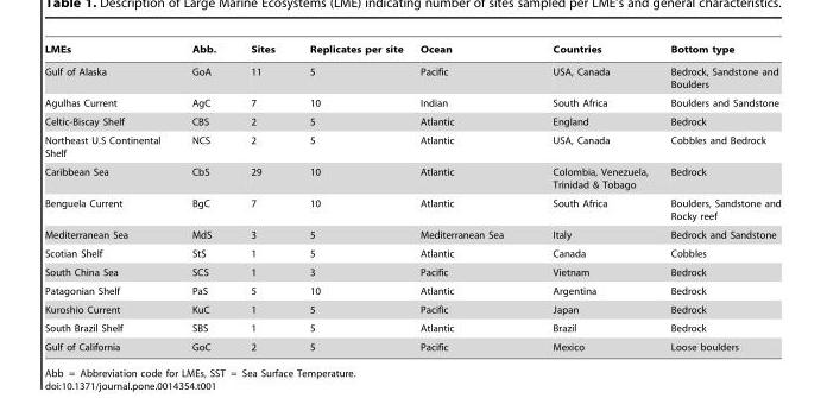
<table><thead><tr><td>LMEs</td><td>Abb.</td><td>Sites</td><td>Replicates per site</td><td>Ocean</td><td>Countries</td><td>Bottom type</td></tr></thead><tbody><tr><td>Gulf of Alaska</td><td>GoA</td><td>11</td><td>5</td><td>Pacific</td><td>USA, Canada</td><td>Bedrock, Sandstone and Boulders</td></tr><tr><td>Agulhas Current</td><td>AgC</td><td>7</td><td>10</td><td>Indian</td><td>South Africa</td><td>Boulders and Sandstone</td></tr><tr><td>Celtic-Biscay Shelf</td><td>CBS</td><td>2</td><td>5</td><td>Atlantic</td><td>England</td><td>Bedrock</td></tr><tr><td>Northeast U.S Continental Shelf</td><td>NCS</td><td>2</td><td>5</td><td>Atlantic</td><td>USA, Canada</td><td>Cobbles and Bedrock</td></tr><tr><td>Caribbean Sea</td><td>CbS</td><td>29</td><td>10</td><td>Atlantic</td><td>Colombia, Venezuela, Trinidad &amp; Tobago</td><td>Bedrock</td></tr><tr><td>Benguela Current</td><td>BgC</td><td>7</td><td>10</td><td>Atlantic</td><td>South Africa</td><td>Boulders, Sandstone and Rocky reef</td></tr><tr><td>Mediterranean Sea</td><td>MdS</td><td>3</td><td>5</td><td>Mediterranean Sea</td><td>Italy</td><td>Bedrock and Sandstone</td></tr><tr><td>Scotian Shelf</td><td>StS</td><td>1</td><td>5</td><td>Atlantic</td><td>Canada</td><td>Cobbles</td></tr><tr><td>South China Sea</td><td>SCS</td><td>1</td><td>3</td><td>Pacific</td><td>Vietnam</td><td>Bedrock</td></tr><tr><td>Patagonian Shelf</td><td>PaS</td><td>5</td><td>10</td><td>Atlantic</td><td>Argentina</td><td>Bedrock</td></tr><tr><td>Kuroshio Current</td><td>KuC</td><td>1</td><td>5</td><td>Pacific</td><td>Japan</td><td>Bedrock</td></tr><tr><td>South Brazil Shelf</td><td>SBS</td><td>1</td><td>5</td><td>Atlantic</td><td>Brazil</td><td>Bedrock</td></tr><tr><td>Gulf of California</td><td>GoC</td><td>2</td><td>5</td><td>Pacific</td><td>Mexico</td><td>Loose boulders</td></tr></tbody></table>